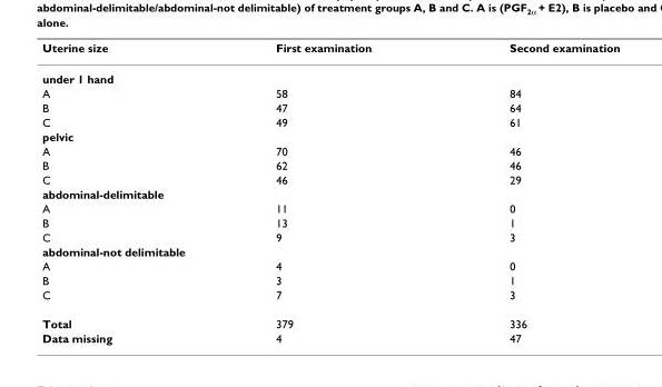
<table><thead><tr><td>Uterine size</td><td>First examination</td><td>Second examination</td></tr></thead><tbody><tr><td colspan="3">under 1 hand</td></tr><tr><td>A</td><td>58</td><td>84</td></tr><tr><td>B</td><td>47</td><td>64</td></tr><tr><td>C</td><td>49</td><td>61</td></tr><tr><td colspan="3">pelvic</td></tr><tr><td>A</td><td>70</td><td>46</td></tr><tr><td>B</td><td>62</td><td>46</td></tr><tr><td>C</td><td>46</td><td>29</td></tr><tr><td colspan="3">abdominal-delimitable</td></tr><tr><td>A</td><td>11</td><td>0</td></tr><tr><td>B</td><td>13</td><td>1</td></tr><tr><td>C</td><td>9</td><td>3</td></tr><tr><td colspan="3">abdominal-not delimitable</td></tr><tr><td>A</td><td>4</td><td>0</td></tr><tr><td>B</td><td>3</td><td>1</td></tr><tr><td>C</td><td>7</td><td>3</td></tr><tr><td>Total</td><td>379</td><td>336</td></tr><tr><td>Data missing</td><td>4</td><td>47</td></tr></tbody></table>